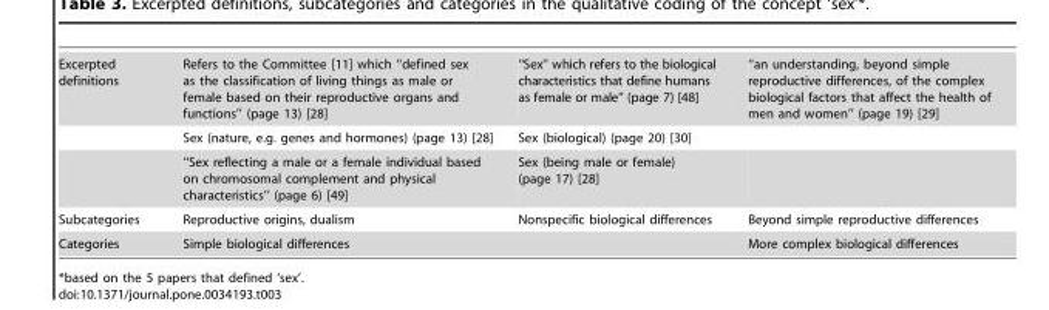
<table><tbody><tr><td rowspan="3">Excerpted definitions</td><td>Refers to the Committee [11] which ‘‘defined sex as the classification of living things as male or female based on their reproductive organs and functions’’ (page 13) [28]</td><td>‘‘Sex’’ which refers to the biological characteristics that define humans as female or male’’ (page 7) [48]</td><td>‘‘an understanding, beyond simple reproductive differences, of the complex biological factors that affect the health of men and women’’ (page 19) [29]</td></tr><tr><td>Sex (nature, e.g. genes and hormones) (page 13) [28]</td><td>Sex (biological) (page 20) [30]</td><td></td></tr><tr><td>‘‘Sex reflecting a male or a female individual based on chromosomal complement and physical characteristics’’ (page 6) [49]</td><td>Sex (being male or female) (page 17) [28]</td><td></td></tr><tr><td>Subcategories</td><td>Reproductive origins, dualism</td><td>Nonspecific biological differences</td><td>Beyond simple reproductive differences</td></tr><tr><td>Categories</td><td colspan="2">Simple biological differences</td><td>More complex biological differences</td></tr></tbody></table>